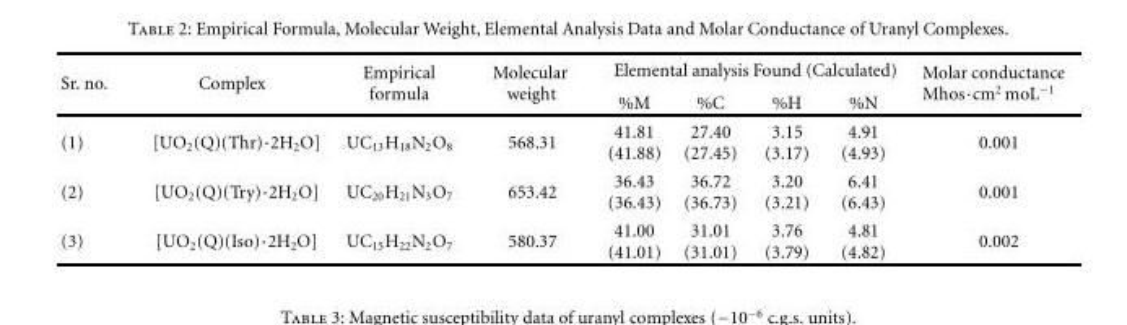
<table><thead><tr><td rowspan="2">Sr. no.</td><td rowspan="2">Complex</td><td rowspan="2">Empirical formula</td><td rowspan="2">Molecular weight</td><td colspan="4">Elemental analysis Found (Calculated)</td><td rowspan="2">Molar conductance Mhos·cm<sup>2</sup> moL<sup>−1</sup></td></tr><tr><td>%M</td><td>%C</td><td>%H</td><td>%N</td></tr></thead><tbody><tr><td>(1)</td><td>[UO<sub>2</sub>(Q)(Thr)·2H<sub>2</sub>O]</td><td>UC<sub>13</sub>H<sub>18</sub>N<sub>2</sub>O<sub>8</sub></td><td>568.31</td><td>41.81 (41.88)</td><td>27.40 (27.45)</td><td>3.15 (3.17)</td><td>4.91 (4.93)</td><td>0.001</td></tr><tr><td>(2)</td><td>[UO<sub>2</sub>(Q)(Try)·2H<sub>2</sub>O]</td><td>UC<sub>20</sub>H<sub>21</sub>N<sub>3</sub>O<sub>7</sub></td><td>653.42</td><td>36.43 (36.43)</td><td>36.72 (36.73)</td><td>3.20 (3.21)</td><td>6.41 (6.43)</td><td>0.001</td></tr><tr><td>(3)</td><td>[UO<sub>2</sub>(Q)(Iso)·2H<sub>2</sub>O]</td><td>UC<sub>15</sub>H<sub>22</sub>N<sub>2</sub>O<sub>7</sub></td><td>580.37</td><td>41.00 (41.01)</td><td>31.01 (31.01)</td><td>3.76 (3.79)</td><td>4.81 (4.82)</td><td>0.002</td></tr></tbody></table>